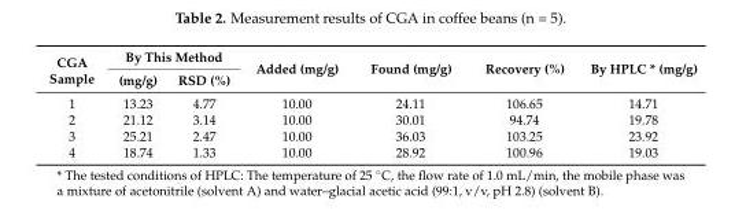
<table><thead><tr><td rowspan="2">CGA Sample</td><td colspan="2">By This Method</td><td rowspan="2">Added (mg/g)</td><td rowspan="2">Found (mg/g)</td><td rowspan="2">Recovery (%)</td><td rowspan="2">By HPLC * (mg/g)</td></tr><tr><td>(mg/g)</td><td>RSD (%)</td></tr></thead><tbody><tr><td>1</td><td>13.23</td><td>4.77</td><td>10.00</td><td>24.11</td><td>106.65</td><td>14.71</td></tr><tr><td>2</td><td>21.12</td><td>3.14</td><td>10.00</td><td>30.01</td><td>94.74</td><td>19.78</td></tr><tr><td>3</td><td>25.21</td><td>2.47</td><td>10.00</td><td>36.03</td><td>103.25</td><td>23.92</td></tr><tr><td>4</td><td>18.74</td><td>1.33</td><td>10.00</td><td>28.92</td><td>100.96</td><td>19.03</td></tr></tbody></table>